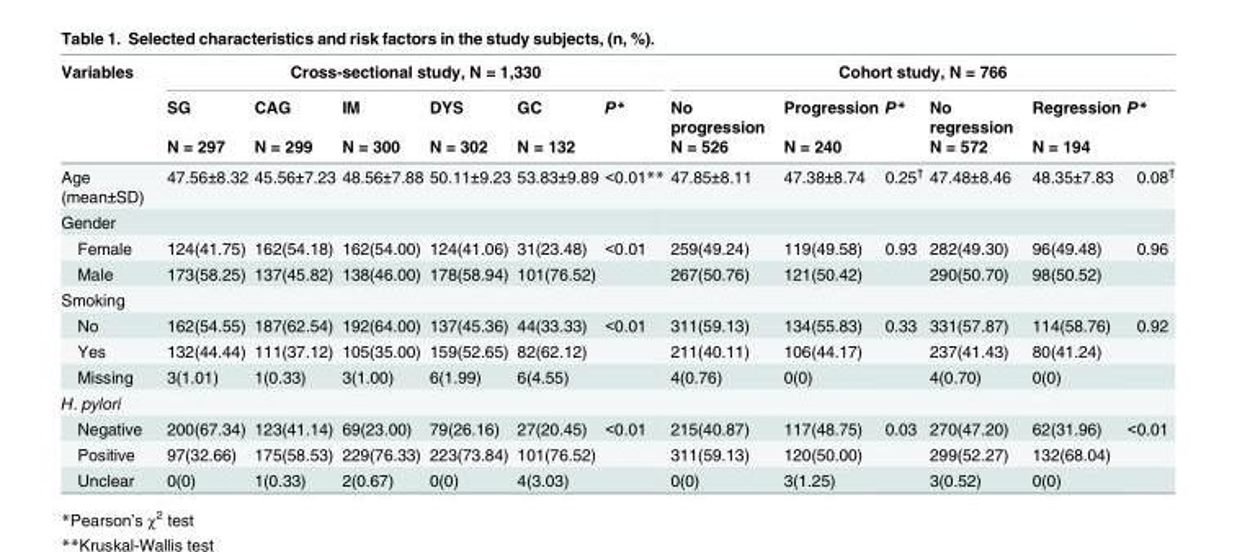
<table><thead><tr><td rowspan="3">Variables</td><td colspan="6">Cross-sectional study, N = 1,330</td><td colspan="6">Cohort study, N = 766</td></tr><tr><td rowspan="2">SG N = 297</td><td rowspan="2">CAG N = 299</td><td rowspan="2">IM N = 300</td><td rowspan="2">DYS N = 302</td><td rowspan="2">GC N = 132</td><td rowspan="2">P*</td><td rowspan="2">No progression N = 526</td><td rowspan="2">Progression N = 240</td><td rowspan="2">P*</td><td rowspan="2">No regression N = 572</td><td rowspan="2">Regression N = 194</td><td rowspan="2">P*</td></tr><tr></tr></thead><tbody><tr><td>Age (mean±SD)</td><td>47.56±8.32</td><td>45.56±7.23</td><td>48.56±7.88</td><td>50.11±9.23</td><td>53.83±9.89</td><td>&lt;0.01**</td><td>47.85±8.11</td><td>47.38±8.74</td><td>0.25<sup>†</sup></td><td>47.48±8.46</td><td>48.35±7.83</td><td>0.08<sup>†</sup></td></tr><tr><td colspan="13">Gender</td></tr><tr><td>Female</td><td>124(41.75)</td><td>162(54.18)</td><td>162(54.00)</td><td>124(41.06)</td><td>31(23.48)</td><td>&lt;0.01</td><td>259(49.24)</td><td>119(49.58)</td><td>0.93</td><td>282(49.30)</td><td>96(49.48)</td><td>0.96</td></tr><tr><td>Male</td><td>173(58.25)</td><td>137(45.82)</td><td>138(46.00)</td><td>178(58.94)</td><td>101(76.52)</td><td></td><td>267(50.76)</td><td>121(50.42)</td><td></td><td>290(50.70)</td><td>98(50.52)</td><td></td></tr><tr><td colspan="13">Smoking</td></tr><tr><td>No</td><td>162(54.55)</td><td>187(62.54)</td><td>192(64.00)</td><td>137(45.36)</td><td>44(33.33)</td><td>&lt;0.01</td><td>311(59.13)</td><td>134(55.83)</td><td>0.33</td><td>331(57.87)</td><td>114(58.76)</td><td>0.92</td></tr><tr><td>Yes</td><td>132(44.44)</td><td>111(37.12)</td><td>105(35.00)</td><td>159(52.65)</td><td>82(62.12)</td><td></td><td>211(40.11)</td><td>106(44.17)</td><td></td><td>237(41.43)</td><td>80(41.24)</td><td></td></tr><tr><td>Missing</td><td>3(1.01)</td><td>1(0.33)</td><td>3(1.00)</td><td>6(1.99)</td><td>6(4.55)</td><td></td><td>4(0.76)</td><td>0(0)</td><td></td><td>4(0.70)</td><td>0(0)</td><td></td></tr><tr><td colspan="13">H. pylori</td></tr><tr><td>Negative</td><td>200(67.34)</td><td>123(41.14)</td><td>69(23.00)</td><td>79(26.16)</td><td>27(20.45)</td><td>&lt;0.01</td><td>215(40.87)</td><td>117(48.75)</td><td>0.03</td><td>270(47.20)</td><td>62(31.96)</td><td>&lt;0.01</td></tr><tr><td>Positive</td><td>97(32.66)</td><td>175(58.53)</td><td>229(76.33)</td><td>223(73.84)</td><td>101(76.52)</td><td></td><td>311(59.13)</td><td>120(50.00)</td><td></td><td>299(52.27)</td><td>132(68.04)</td><td></td></tr><tr><td>Unclear</td><td>0(0)</td><td>1(0.33)</td><td>2(0.67)</td><td>0(0)</td><td>4(3.03)</td><td></td><td>0(0)</td><td>3(1.25)</td><td></td><td>3(0.52)</td><td>0(0)</td><td></td></tr></tbody></table>